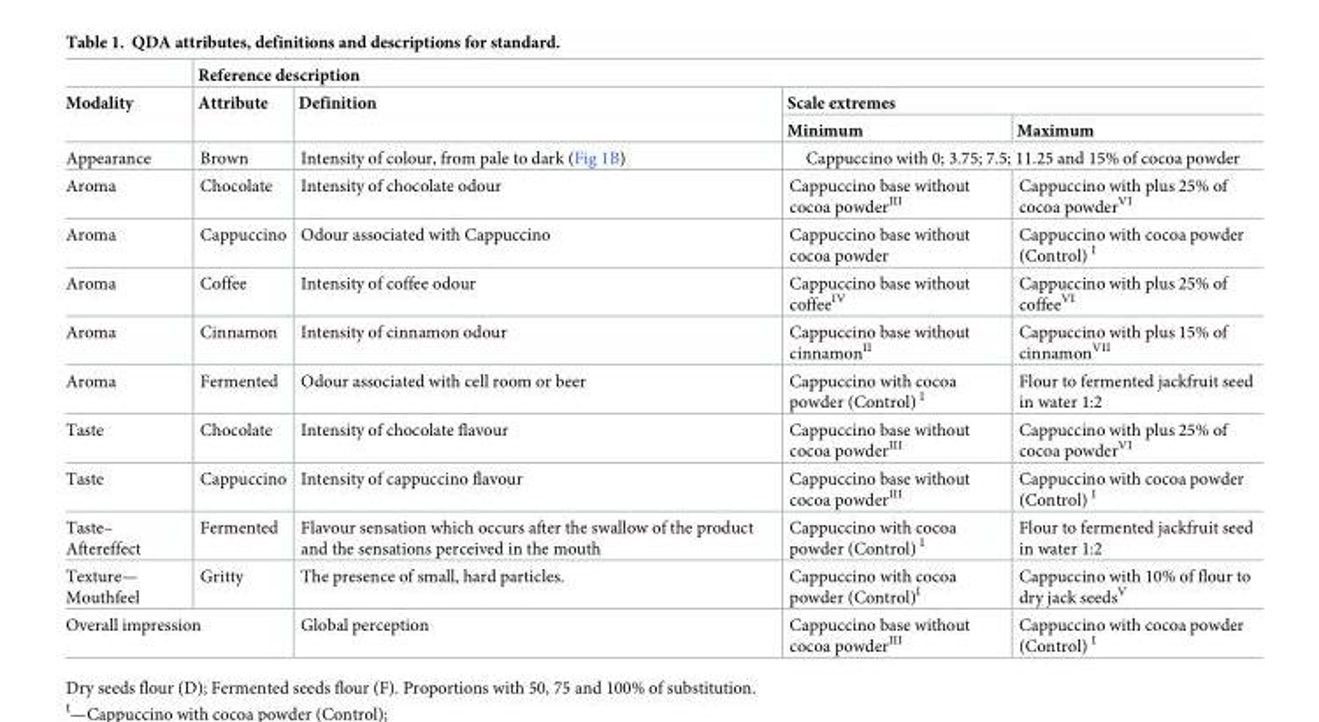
<table><thead><tr><td rowspan="3">Modality</td><td colspan="4">Reference description</td></tr><tr><td rowspan="2">Attribute</td><td rowspan="2">Definition</td><td colspan="2">Scale extremes</td></tr><tr><td>Minimum</td><td>Maximum</td></tr></thead><tbody><tr><td>Appearance</td><td>Brown</td><td>Intensity of colour, from pale to dark (Fig 1B)</td><td colspan="2">Cappuccino with 0; 3.75; 7.5; 11.25 and 15% of cocoa powder</td></tr><tr><td>Aroma</td><td>Chocolate</td><td>Intensity of chocolate odour</td><td>Cappuccino base without cocoa powder<sup>III</sup></td><td>Cappuccino with plus 25% of cocoa powder<sup>VI</sup></td></tr><tr><td>Aroma</td><td>Cappuccino</td><td>Odour associated with Cappuccino</td><td>Cappuccino base without cocoa powder</td><td>Cappuccino with cocoa powder (Control) <sup>I</sup></td></tr><tr><td>Aroma</td><td>Coffee</td><td>Intensity of coffee odour</td><td>Cappuccino base without coffee<sup>IV</sup></td><td>Cappuccino with plus 25% of coffee<sup>VI</sup></td></tr><tr><td>Aroma</td><td>Cinnamon</td><td>Intensity of cinnamon odour</td><td>Cappuccino base without cinnamon<sup>II</sup></td><td>Cappuccino with plus 15% of cinnamon<sup>VII</sup></td></tr><tr><td>Aroma</td><td>Fermented</td><td>Odour associated with cell room or beer</td><td>Cappuccino with cocoa powder (Control) <sup>I</sup></td><td>Flour to fermented jackfruit seed in water 1:2</td></tr><tr><td>Taste</td><td>Chocolate</td><td>Intensity of chocolate flavour</td><td>Cappuccino base without cocoa powder<sup>III</sup></td><td>Cappuccino with plus 25% of cocoa powder<sup>VI</sup></td></tr><tr><td>Taste</td><td>Cappuccino</td><td>Intensity of cappuccino flavour</td><td>Cappuccino base without cocoa powder<sup>III</sup></td><td>Cappuccino with cocoa powder (Control) <sup>I</sup></td></tr><tr><td>Taste– Aftereffect</td><td>Fermented</td><td>Flavour sensation which occurs after the swallow of the product and the sensations perceived in the mouth</td><td>Cappuccino with cocoa powder (Control) <sup>I</sup></td><td>Flour to fermented jackfruit seed in water 1:2</td></tr><tr><td>Texture— Mouthfeel</td><td>Gritty</td><td>The presence of small, hard particles.</td><td>Cappuccino with cocoa powder (Control)<sup>I</sup></td><td>Cappuccino with 10% of flour to dry jack seeds<sup>V</sup></td></tr><tr><td colspan="2">Overall impression</td><td>Global perception</td><td>Cappuccino base without cocoa powder<sup>III</sup></td><td>Cappuccino with cocoa powder (Control) <sup>I</sup></td></tr></tbody></table>